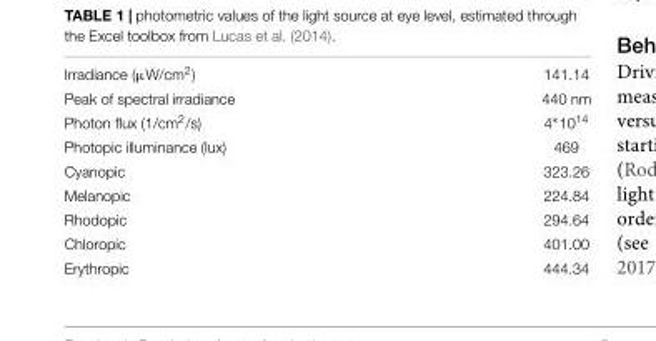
<table><tbody><tr><td>Irradiance (µW/cm<sup>2</sup>)</td><td>141.14</td></tr><tr><td>Peak of spectral irradiance</td><td>440 nm</td></tr><tr><td>Photon flux (1/cm<sup>2</sup>/s)</td><td>4∗10<sup>14</sup></td></tr><tr><td>Photopic illuminance (lux)</td><td>469</td></tr><tr><td>Cyanopic</td><td>323.26</td></tr><tr><td>Melanopic</td><td>224.84</td></tr><tr><td>Rhodopic</td><td>294.64</td></tr><tr><td>Chloropic</td><td>401.00</td></tr><tr><td>Erythropic</td><td>444.34</td></tr></tbody></table>